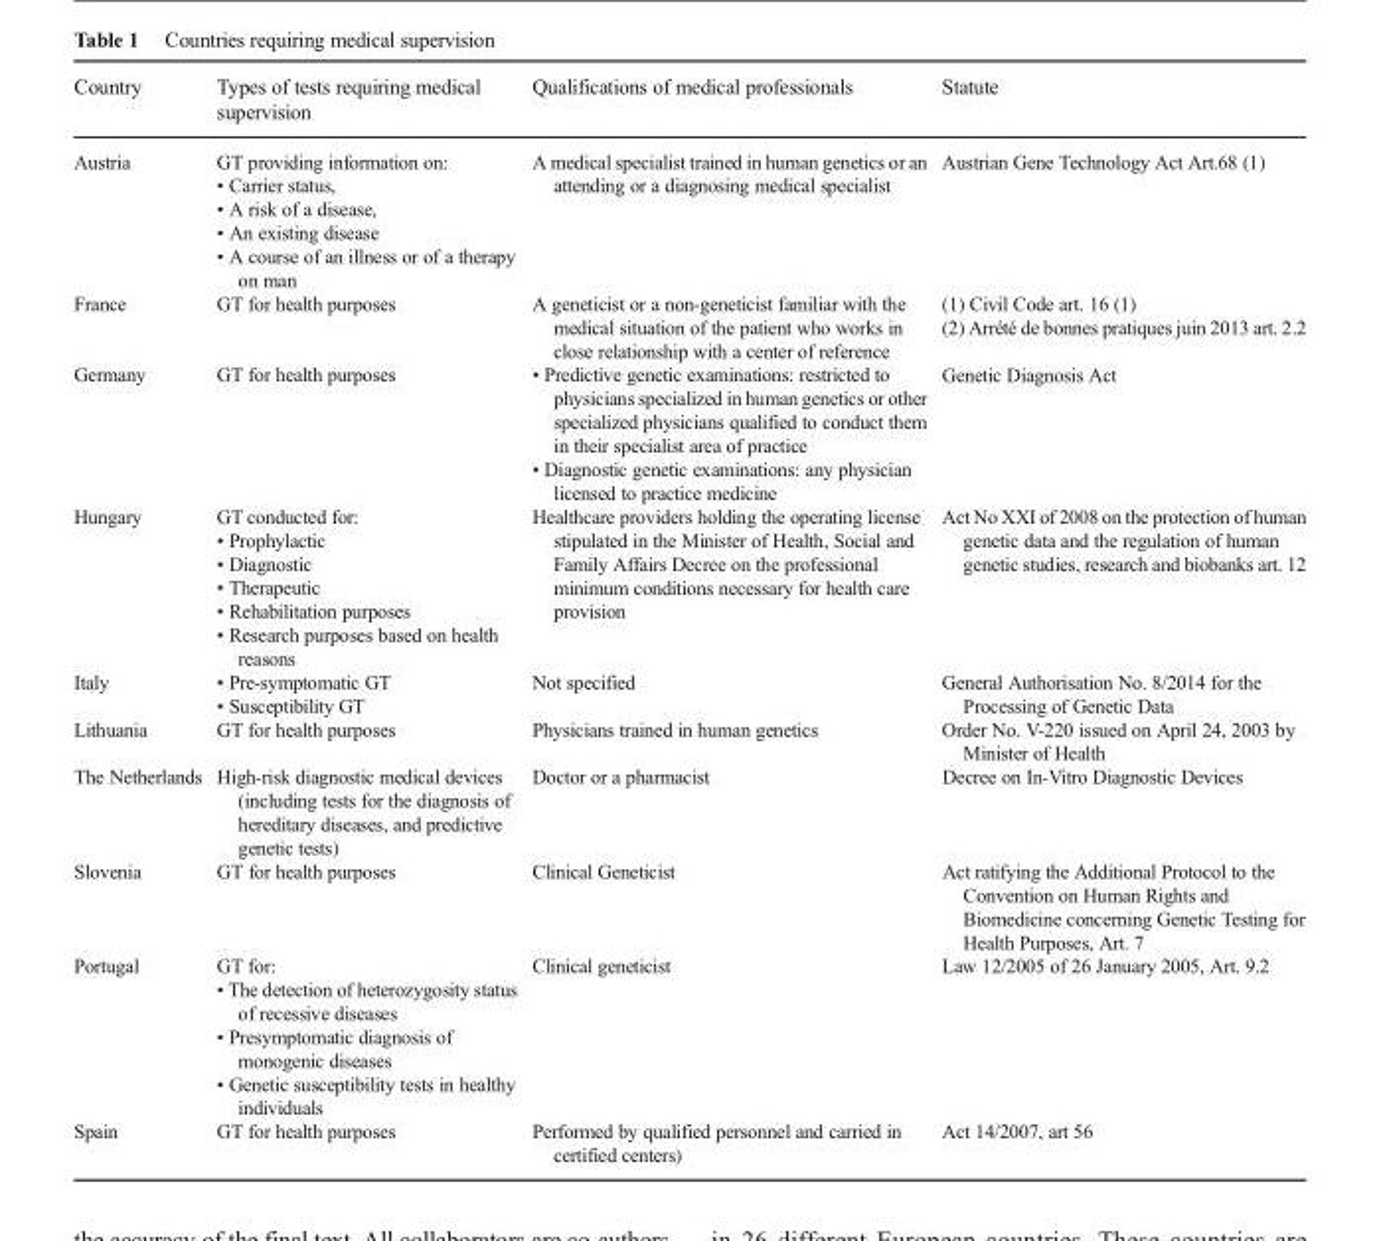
<table><thead><tr><td>Country</td><td>Types of tests requiring medical supervision</td><td>Qualifications of medical professionals</td><td>Statute</td></tr></thead><tbody><tr><td>Austria</td><td>GT providing information on: • Carrier status, • A risk of a disease, • An existing disease • A course of an illness or of a therapy on man</td><td>A medical specialist trained in human genetics or an attending or a diagnosing medical specialist</td><td>Austrian Gene Technology Act Art.68 (1)</td></tr><tr><td>France</td><td>GT for health purposes</td><td>A geneticist or a non-geneticist familiar with the medical situation of the patient who works in close relationship with a center of reference</td><td>(1) Civil Code art. 16 (1) (2) Arrété de bonnes pratiques juin 2013 art. 2.2</td></tr><tr><td>Germany</td><td>GT for health purposes</td><td>• Predictive genetic examinations: restricted to physicians specialized in human genetics or other specialized physicians qualified to conduct them in their specialist area of practice • Diagnostic genetic examinations: any physician licensed to practice medicine</td><td>Genetic Diagnosis Act</td></tr><tr><td>Hungary</td><td>GT conducted for: • Prophylactic • Diagnostic • Therapeutic • Rehabilitation purposes • Research purposes based on health reasons</td><td>Healthcare providers holding the operating license stipulated in the Minister of Health, Social and Family Affairs Decree on the professional minimum conditions necessary for health care provision</td><td>Act No XXI of 2008 on the protection of human genetic data and the regulation of human genetic studies, research and biobanks art. 12</td></tr><tr><td>Italy</td><td>• Pre-symptomatic GT • Susceptibility GT</td><td>Not specified</td><td>General Authorisation No. 8/2014 for the Processing of Genetic Data</td></tr><tr><td>Lithuania</td><td>GT for health purposes</td><td>Physicians trained in human genetics</td><td>Order No. V-220 issued on April 24, 2003 by Minister of Health</td></tr><tr><td>The Netherlands</td><td>High-risk diagnostic medical devices (including tests for the diagnosis of hereditary diseases, and predictive genetic tests)</td><td>Doctor or a pharmacist</td><td>Decree on In-Vitro Diagnostic Devices</td></tr><tr><td>Slovenia</td><td>GT for health purposes</td><td>Clinical Geneticist</td><td>Act ratifying the Additional Protocol to the Convention on Human Rights and Biomedicine concerning Genetic Testing for Health Purposes, Art. 7</td></tr><tr><td>Portugal</td><td>GT for: • The detection of heterozygosity status of recessive diseases • Presymptomatic diagnosis of monogenic diseases • Genetic susceptibility tests in healthy individuals</td><td>Clinical geneticist</td><td>Law 12/2005 of 26 January 2005, Art. 9.2</td></tr><tr><td>Spain</td><td>GT for health purposes</td><td>Performed by qualified personnel and carried in certified centers)</td><td>Act 14/2007, art 56</td></tr></tbody></table>